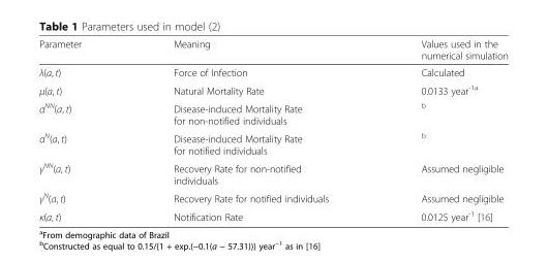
<table><thead><tr><td>Parameter</td><td>Meaning</td><td>Values used in the numerical simulation</td></tr></thead><tbody><tr><td>λ(a, t)</td><td>Force of Infection</td><td>Calculated</td></tr><tr><td>μ(a, t)</td><td>Natural Mortality Rate</td><td>0.0133 year<sup>-1a</sup></td></tr><tr><td>α<sup>NN</sup>(a, t)</td><td>Disease-induced Mortality Rate for non-notified individuals</td><td><sup>b</sup></td></tr><tr><td>α<sup>N</sup>(a, t)</td><td>Disease-induced Mortality Rate for notified individuals</td><td><sup>b</sup></td></tr><tr><td>γ<sup>NN</sup>(a, t)</td><td>Recovery Rate for non-notified individuals</td><td>Assumed negligible</td></tr><tr><td>γ<sup>N</sup>(a, t)</td><td>Recovery Rate for notified individuals</td><td>Assumed negligible</td></tr><tr><td>κ(a, t)</td><td>Notification Rate</td><td>0.0125 year<sup>-1</sup> [16]</td></tr></tbody></table>